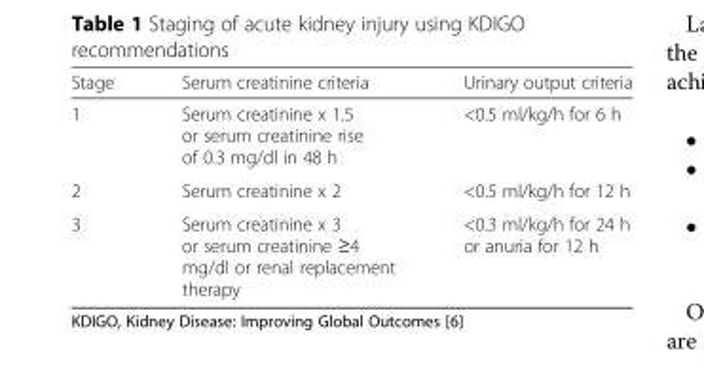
<table><thead><tr><td>Stage</td><td>Serum creatinine criteria</td><td>Urinary output criteria</td></tr></thead><tbody><tr><td>1</td><td>Serum creatinine x 1.5 or serum creatinine rise of 0.3 mg/dl in 48 h</td><td>&lt;0.5 ml/kg/h for 6 h</td></tr><tr><td>2</td><td>Serum creatinine x 2</td><td>&lt;0.5 ml/kg/h for 12 h</td></tr><tr><td>3</td><td>Serum creatinine x 3 or serum creatinine ≥4 mg/dl or renal replacement therapy</td><td>&lt;0.3 ml/kg/h for 24 h or anuria for 12 h</td></tr></tbody></table>